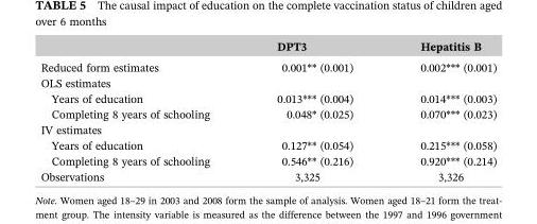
<table><thead><tr><td></td><td>DPT3</td><td>Hepatitis B</td></tr></thead><tbody><tr><td>Reduced form estimates</td><td>0.001** (0.001)</td><td>0.002*** (0.001)</td></tr><tr><td colspan="3">OLS estimates</td></tr><tr><td>Years of education</td><td>0.013*** (0.004)</td><td>0.014*** (0.003)</td></tr><tr><td>Completing 8 years of schooling</td><td>0.048* (0.025)</td><td>0.070*** (0.023)</td></tr><tr><td colspan="3">IV estimates</td></tr><tr><td>Years of education</td><td>0.127** (0.054)</td><td>0.215*** (0.058)</td></tr><tr><td>Completing 8 years of schooling</td><td>0.546** (0.216)</td><td>0.920*** (0.214)</td></tr><tr><td>Observations</td><td>3,325</td><td>3,326</td></tr></tbody></table>